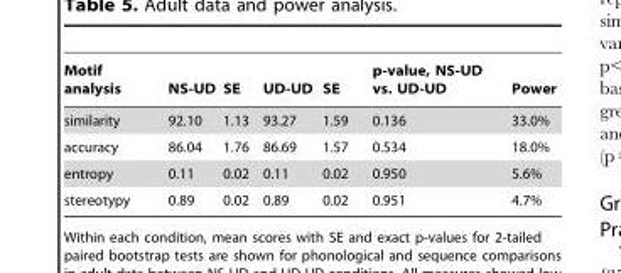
<table><thead><tr><td>Motif analysis</td><td>NS-UD</td><td>SE</td><td>UD-UD</td><td>SE</td><td>p-value, NS-UD vs. UD-UD</td><td>Power</td></tr></thead><tbody><tr><td>similarity</td><td>92.10</td><td>1.13</td><td>93.27</td><td>1.59</td><td>0.136</td><td>33.0%</td></tr><tr><td>accuracy</td><td>86.04</td><td>1.76</td><td>86.69</td><td>1.57</td><td>0.534</td><td>18.0%</td></tr><tr><td>entropy</td><td>0.11</td><td>0.02</td><td>0.11</td><td>0.02</td><td>0.950</td><td>5.6%</td></tr><tr><td>stereotypy</td><td>0.89</td><td>0.02</td><td>0.89</td><td>0.02</td><td>0.951</td><td>4.7%</td></tr></tbody></table>